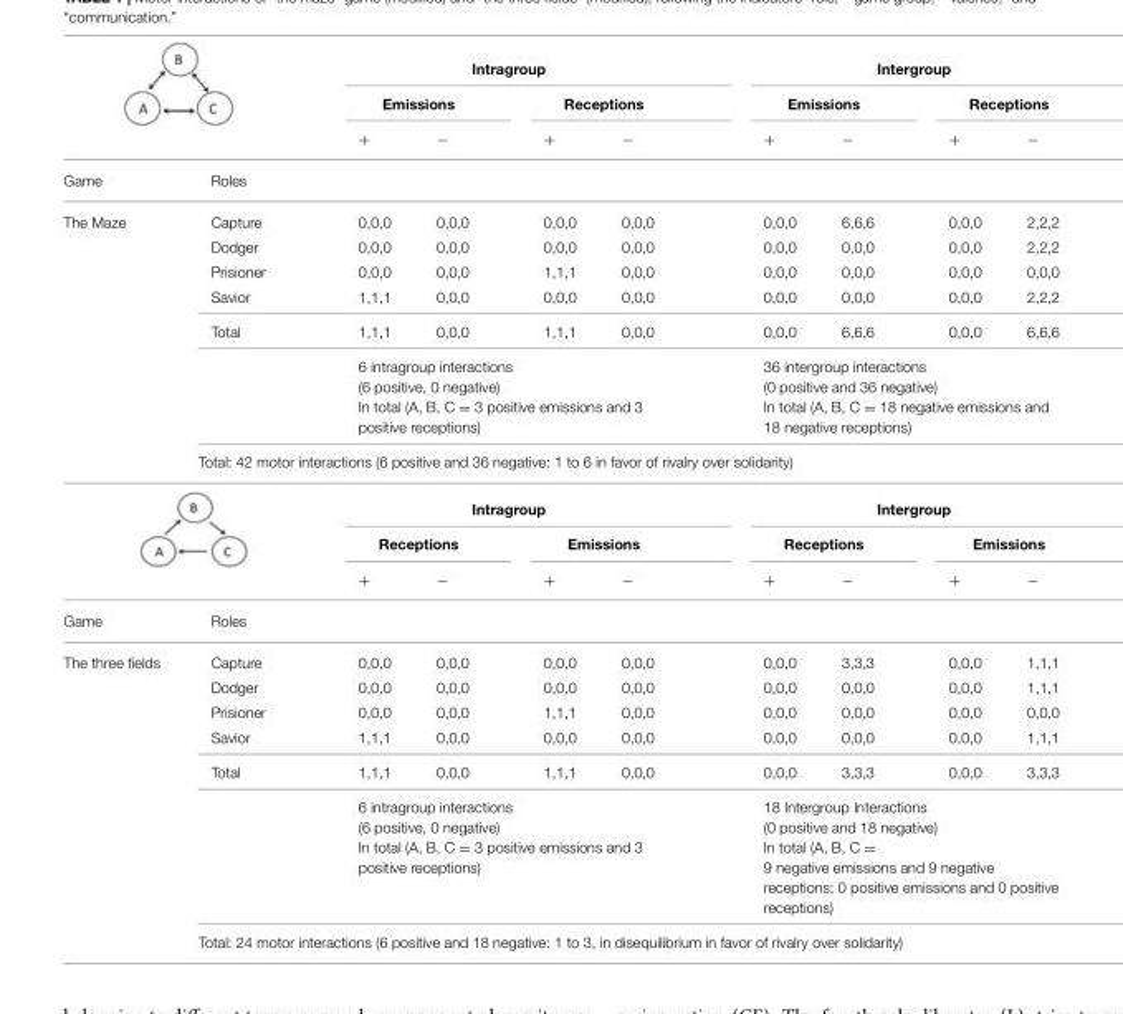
<table><thead><tr><td rowspan="3"></td><td rowspan="3"></td><td colspan="4">Intragroup</td><td colspan="4">Intergroup</td></tr><tr><td colspan="2">Emissions</td><td colspan="2">Receptions</td><td colspan="2">Emissions</td><td colspan="2">Receptions</td></tr><tr><td>+</td><td>−</td><td>+</td><td>−</td><td>+</td><td>−</td><td>+</td><td>−</td></tr></thead><tbody><tr><td>Game</td><td>Roles</td><td></td><td></td><td></td><td></td><td></td><td></td><td></td><td></td></tr><tr><td rowspan="7">The Maze</td><td>Capture</td><td>0,0,0</td><td>0,0,0</td><td>0,0,0</td><td>0,0,0</td><td>0,0,0</td><td>6,6,6</td><td>0,0,0</td><td>2,2,2</td></tr><tr><td>Dodger</td><td>0,0,0</td><td>0,0,0</td><td>0,0,0</td><td>0,0,0</td><td>0,0,0</td><td>0,0,0</td><td>0,0,0</td><td>2,2,2</td></tr><tr><td>Prisioner</td><td>0,0,0</td><td>0,0,0</td><td>1,1,1</td><td>0,0,0</td><td>0,0,0</td><td>0,0,0</td><td>0,0,0</td><td>0,0,0</td></tr><tr><td>Savior</td><td>1,1,1</td><td>0,0,0</td><td>0,0,0</td><td>0,0,0</td><td>0,0,0</td><td>0,0,0</td><td>0,0,0</td><td>2,2,2</td></tr><tr><td>Total</td><td>1,1,1</td><td>0,0,0</td><td>1,1,1</td><td>0,0,0</td><td>0,0,0</td><td>6,6,6</td><td>0,0,0</td><td>6,6,6</td></tr><tr><td></td><td colspan="4">6 intragroup interactions (6 positive, 0 negative) In total (A, B, C = 3 positive emissions and 3 positive receptions)</td><td colspan="4">36 intergroup interactions (0 positive and 36 negative) In total (A, B, C = 18 negative emissions and 18 negative receptions)</td></tr><tr><td colspan="9">Total: 42 motor interactions (6 positive and 36 negative: 1 to 6 in favor of rivalry over solidarity)</td></tr><tr><td rowspan="3" colspan="2"></td><td colspan="4">Intragroup</td><td colspan="4">Intergroup</td></tr><tr><td colspan="2">Receptions</td><td colspan="2">Emissions</td><td colspan="2">Receptions</td><td colspan="2">Emissions</td></tr><tr><td>+</td><td>−</td><td>+</td><td>−</td><td>+</td><td>−</td><td>+</td><td>−</td></tr><tr><td>Game</td><td>Roles</td><td></td><td></td><td></td><td></td><td></td><td></td><td></td><td></td></tr><tr><td rowspan="7">The three fields</td><td>Capture</td><td>0,0,0</td><td>0,0,0</td><td>0,0,0</td><td>0,0,0</td><td>0,0,0</td><td>3,3,3</td><td>0,0,0</td><td>1,1,1</td></tr><tr><td>Dodger</td><td>0,0,0</td><td>0,0,0</td><td>0,0,0</td><td>0,0,0</td><td>0,0,0</td><td>0,0,0</td><td>0,0,0</td><td>1,1,1</td></tr><tr><td>Prisioner</td><td>0,0,0</td><td>0,0,0</td><td>1,1,1</td><td>0,0,0</td><td>0,0,0</td><td>0,0,0</td><td>0,0,0</td><td>0,0,0</td></tr><tr><td>Savior</td><td>1,1,1</td><td>0,0,0</td><td>0,0,0</td><td>0,0,0</td><td>0,0,0</td><td>0,0,0</td><td>0,0,0</td><td>1,1,1</td></tr><tr><td>Total</td><td>1,1,1</td><td>0,0,0</td><td>1,1,1</td><td>0,0,0</td><td>0,0,0</td><td>3,3,3</td><td>0,0,0</td><td>3,3,3</td></tr><tr><td></td><td colspan="4">6 intragroup interactions (6 positive, 0 negative) In total (A, B, C = 3 positive emissions and 3 positive receptions)</td><td colspan="4">18 Intergroup Interactions (0 positive and 18 negative) In total (A, B, C = 9 negative emissions and 9 negative receptions; 0 positive emissions and 0 positive receptions)</td></tr><tr><td colspan="9">Total: 24 motor interactions (6 positive and 18 negative: 1 to 3, in disequilibrium in favor of rivalry over solidarity)</td></tr></tbody></table>